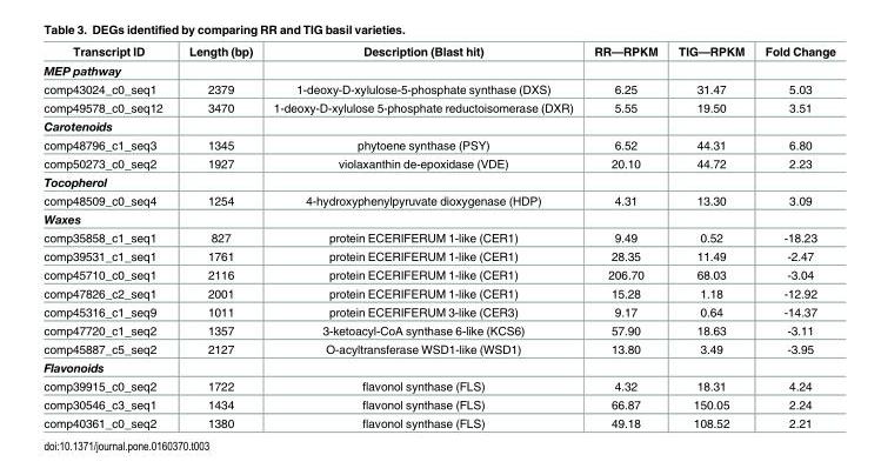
<table><thead><tr><td>Transcript ID</td><td>Length (bp)</td><td>Description (Blast hit)</td><td>RR—RPKM</td><td>TIG—RPKM</td><td>Fold Change</td></tr></thead><tbody><tr><td colspan="6">MEP pathway</td></tr><tr><td>comp43024_c0_seq1</td><td>2379</td><td>1-deoxy-D-xylulose-5-phosphate synthase (DXS)</td><td>6.25</td><td>31.47</td><td>5.03</td></tr><tr><td>comp49578_c0_seq12</td><td>3470</td><td>1-deoxy-D-xylulose 5-phosphate reductoisomerase (DXR)</td><td>5.55</td><td>19.50</td><td>3.51</td></tr><tr><td colspan="6">Carotenoids</td></tr><tr><td>comp48796_c1_seq3</td><td>1345</td><td>phytoene synthase (PSY)</td><td>6.52</td><td>44.31</td><td>6.80</td></tr><tr><td>comp50273_c0_seq2</td><td>1927</td><td>violaxanthin de-epoxidase (VDE)</td><td>20.10</td><td>44.72</td><td>2.23</td></tr><tr><td colspan="6">Tocopherol</td></tr><tr><td>comp48509_c0_seq4</td><td>1254</td><td>4-hydroxyphenylpyruvate dioxygenase (HDP)</td><td>4.31</td><td>13.30</td><td>3.09</td></tr><tr><td colspan="6">Waxes</td></tr><tr><td>comp35858_c1_seq1</td><td>827</td><td>protein ECERIFERUM 1-like (CER1)</td><td>9.49</td><td>0.52</td><td>-18.23</td></tr><tr><td>comp39531_c1_seq1</td><td>1761</td><td>protein ECERIFERUM 1-like (CER1)</td><td>28.35</td><td>11.49</td><td>-2.47</td></tr><tr><td>comp45710_c0_seq1</td><td>2116</td><td>protein ECERIFERUM 1-like (CER1)</td><td>206.70</td><td>68.03</td><td>-3.04</td></tr><tr><td>comp47826_c2_seq1</td><td>2001</td><td>protein ECERIFERUM 1-like (CER1)</td><td>15.28</td><td>1.18</td><td>-12.92</td></tr><tr><td>comp45316_c1_seq9</td><td>1011</td><td>protein ECERIFERUM 3-like (CER3)</td><td>9.17</td><td>0.64</td><td>-14.37</td></tr><tr><td>comp47720_c1_seq2</td><td>1357</td><td>3-ketoacyl-CoA synthase 6-like (KCS6)</td><td>57.90</td><td>18.63</td><td>-3.11</td></tr><tr><td>comp45887_c5_seq2</td><td>2127</td><td>O-acyltransferase WSD1-like (WSD1)</td><td>13.80</td><td>3.49</td><td>-3.95</td></tr><tr><td colspan="6">Flavonoids</td></tr><tr><td>comp39915_c0_seq2</td><td>1722</td><td>flavonol synthase (FLS)</td><td>4.32</td><td>18.31</td><td>4.24</td></tr><tr><td>comp30546_c3_seq1</td><td>1434</td><td>flavonol synthase (FLS)</td><td>66.87</td><td>150.05</td><td>2.24</td></tr><tr><td>comp40361_c0_seq2</td><td>1380</td><td>flavonol synthase (FLS)</td><td>49.18</td><td>108.52</td><td>2.21</td></tr></tbody></table>